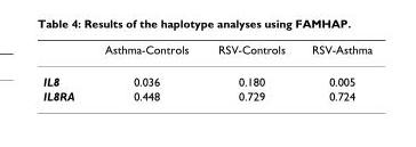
<table><thead><tr><td></td><td>Asthma-Controls</td><td>RSV-Controls</td><td>RSV-Asthma</td></tr></thead><tbody><tr><td>IL8</td><td>0.036</td><td>0.180</td><td>0.005</td></tr><tr><td>IL8RA</td><td>0.448</td><td>0.729</td><td>0.724</td></tr></tbody></table>